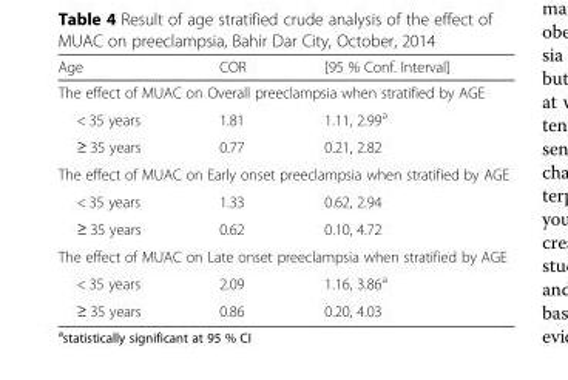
<table><thead><tr><td>Age</td><td>COR</td><td>[95 % Conf. Interval]</td></tr></thead><tbody><tr><td colspan="3">The effect of MUAC on Overall preeclampsia when stratified by AGE</td></tr><tr><td>&lt; 35 years</td><td>1.81</td><td>1.11, 2.99<sup>a</sup></td></tr><tr><td>≥ 35 years</td><td>0.77</td><td>0.21, 2.82</td></tr><tr><td colspan="3">The effect of MUAC on Early onset preeclampsia when stratified by AGE</td></tr><tr><td>&lt; 35 years</td><td>1.33</td><td>0.62, 2.94</td></tr><tr><td>≥ 35 years</td><td>0.62</td><td>0.10, 4.72</td></tr><tr><td colspan="3">The effect of MUAC on Late onset preeclampsia when stratified by AGE</td></tr><tr><td>&lt; 35 years</td><td>2.09</td><td>1.16, 3.86<sup>a</sup></td></tr><tr><td>≥ 35 years</td><td>0.86</td><td>0.20, 4.03</td></tr></tbody></table>